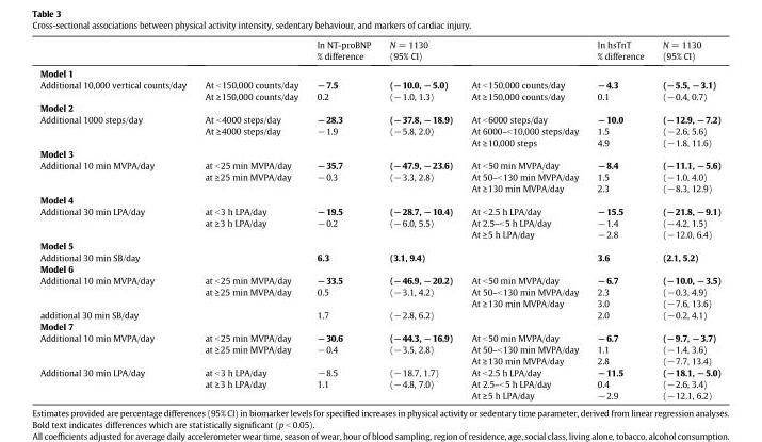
<table><thead><tr><td></td><td></td><td>ln NT-proBNP % difference</td><td>N = 1130 (95% CI)</td><td></td><td>ln hsTnT % difference</td><td>N = 1130 (95% CI)</td></tr></thead><tbody><tr><td colspan="7">Model 1</td></tr><tr><td rowspan="2">Additional 10,000 vertical counts/day</td><td>At &lt;150,000 counts/day</td><td>−7.5</td><td>(−10.0, −5.0)</td><td>At &lt;150,000 counts/day</td><td>−4.3</td><td>(−5.5, −3.1)</td></tr><tr><td>At ≥150,000 counts/day</td><td>0.2</td><td>(−1.0, 1.3)</td><td>At ≥150,000 counts/day</td><td>0.1</td><td>(−0.4, 0.7)</td></tr><tr><td colspan="7">Model 2</td></tr><tr><td rowspan="3">Additional 1000 steps/day</td><td>At &lt;4000 steps/day</td><td>−28.3</td><td>(−37.8, −18.9)</td><td>At &lt;6000 steps/day</td><td>−10.0</td><td>(−12.9, −7.2)</td></tr><tr><td>At ≥4000 steps/day</td><td>−1.9</td><td>(−5.8, 2.0)</td><td>At 6000–&lt;10,000 steps/day</td><td>1.5</td><td>(−2.6, 5.6)</td></tr><tr><td></td><td></td><td></td><td>At ≥10,000 steps</td><td>4.9</td><td>(−1.8, 11.6)</td></tr><tr><td colspan="7">Model 3</td></tr><tr><td rowspan="3">Additional 10 min MVPA/day</td><td>at &lt;25 min MVPA/day</td><td>−35.7</td><td>(−47.9, −23.6)</td><td>At &lt;50 min MVPA/day</td><td>−8.4</td><td>(−11.1, −5.6)</td></tr><tr><td>at ≥25 min MVPA/day</td><td>−0.3</td><td>(−3.3, 2.8)</td><td>At 50–&lt;130 min MVPA/day</td><td>1.5</td><td>(−1.0, 4.0)</td></tr><tr><td></td><td></td><td></td><td>At ≥130 min MVPA/day</td><td>2.3</td><td>(−8.3, 12.9)</td></tr><tr><td colspan="7">Model 4</td></tr><tr><td rowspan="3">Additional 30 min LPA/day</td><td>at &lt;3 h LPA/day</td><td>−19.5</td><td>(−28.7, −10.4)</td><td>At &lt;2.5 h LPA/day</td><td>−15.5</td><td>(−21.8, −9.1)</td></tr><tr><td>at ≥3 h LPA/day</td><td>−0.2</td><td>(−6.0, 5.5)</td><td>At 2.5–&lt;5 h LPA/day</td><td>−1.4</td><td>(−4.2, 1.5)</td></tr><tr><td></td><td></td><td></td><td>At ≥5 h LPA/day</td><td>−2.8</td><td>(−12.0, 6.4)</td></tr><tr><td colspan="7">Model 5</td></tr><tr><td>Additional 30 min SB/day</td><td></td><td>6.3</td><td>(3.1, 9.4)</td><td></td><td>3.6</td><td>(2.1, 5.2)</td></tr><tr><td colspan="7">Model 6</td></tr><tr><td rowspan="3">Additional 10 min MVPA/day</td><td>at &lt;25 min MVPA/day</td><td>−33.5</td><td>(−46.9, −20.2)</td><td>At &lt;50 min MVPA/day</td><td>−6.7</td><td>(−10.0, −3.5)</td></tr><tr><td>at ≥25 min MVPA/day</td><td>0.5</td><td>(−3.1, 4.2)</td><td>At 50–&lt;130 min MVPA/day</td><td>2.3</td><td>(−0.3, 4.9)</td></tr><tr><td></td><td></td><td></td><td>At ≥130 min MVPA/day</td><td>3.0</td><td>(−7.6, 13.6)</td></tr><tr><td>additional 30 min SB/day</td><td></td><td>1.7</td><td>(−2.8, 6.2)</td><td></td><td>2.0</td><td>(−0.2, 4.1)</td></tr><tr><td colspan="7">Model 7</td></tr><tr><td rowspan="3">Additional 10 min MVPA/day</td><td>at &lt;25 min MVPA/day</td><td>−30.6</td><td>(−44.3, −16.9)</td><td>At &lt;50 min MVPA/day</td><td>−6.7</td><td>(−9.7, −3.7)</td></tr><tr><td>at ≥25 min MVPA/day</td><td>−0.4</td><td>(−3.5, 2.8)</td><td>At 50–&lt;130 min MVPA/day</td><td>1.1</td><td>(−1.4, 3.6)</td></tr><tr><td></td><td></td><td></td><td>At ≥130 min MVPA/day</td><td>2.8</td><td>(−7.7, 13.4)</td></tr><tr><td rowspan="3">Additional 30 min LPA/day</td><td>at &lt;3 h LPA/day</td><td>−8.5</td><td>(−18.7, 1.7)</td><td>At &lt;2.5 h LPA/day</td><td>−11.5</td><td>(−18.1, −5.0)</td></tr><tr><td>at ≥3 h LPA/day</td><td>1.1</td><td>(−4.8, 7.0)</td><td>At 2.5–&lt;5 h LPA/day</td><td>0.4</td><td>(−2.6, 3.4)</td></tr><tr><td></td><td></td><td></td><td>At ≥5 h LPA/day</td><td>−2.9</td><td>(−12.1, 6.2)</td></tr></tbody></table>